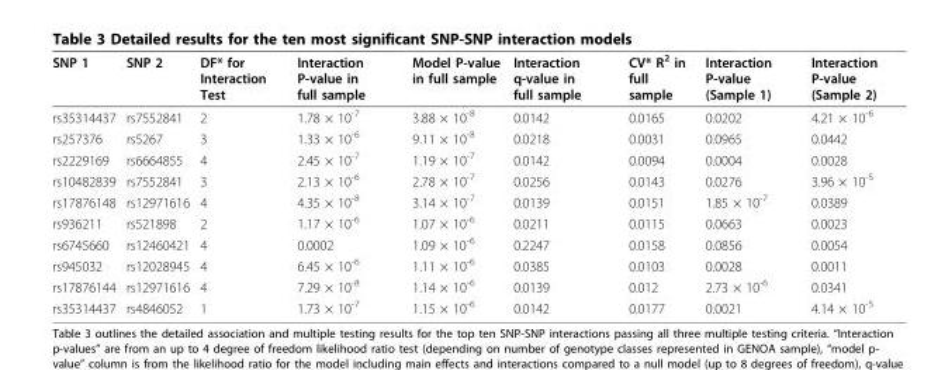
<table><thead><tr><td>SNP 1</td><td>SNP 2</td><td>DF* for Interaction Test</td><td>Interaction P-value in full sample</td><td>Model P-value in full sample</td><td>Interaction q-value in full sample</td><td>CV* R<sup>2</sup> in full sample</td><td>Interaction P-value (Sample 1)</td><td>Interaction P-value (Sample 2)</td></tr></thead><tbody><tr><td>rs35314437</td><td>rs7552841</td><td>2</td><td>1.78 × 10<sup>-7</sup></td><td>3.88 × 10<sup>-8</sup></td><td>0.0142</td><td>0.0165</td><td>0.0202</td><td>4.21 × 10<sup>-6</sup></td></tr><tr><td>rs257376</td><td>rs5267</td><td>3</td><td>1.33 × 10<sup>-6</sup></td><td>9.11 × 10<sup>-8</sup></td><td>0.0218</td><td>0.0031</td><td>0.0965</td><td>0.0442</td></tr><tr><td>rs2229169</td><td>rs6664855</td><td>4</td><td>2.45 × 10<sup>-7</sup></td><td>1.19 × 10<sup>-7</sup></td><td>0.0142</td><td>0.0094</td><td>0.0004</td><td>0.0028</td></tr><tr><td>rs10482839</td><td>rs7552841</td><td>3</td><td>2.13 × 10<sup>-6</sup></td><td>2.78 × 10<sup>-7</sup></td><td>0.0256</td><td>0.0143</td><td>0.0276</td><td>3.96 × 10<sup>-5</sup></td></tr><tr><td>rs17876148</td><td>rs12971616</td><td>4</td><td>4.35 × 10<sup>-8</sup></td><td>3.14 × 10<sup>-7</sup></td><td>0.0139</td><td>0.0151</td><td>1.85 × 10<sup>-7</sup></td><td>0.0389</td></tr><tr><td>rs936211</td><td>rs521898</td><td>2</td><td>1.17 × 10<sup>-6</sup></td><td>1.07 × 10<sup>-6</sup></td><td>0.0211</td><td>0.0115</td><td>0.0663</td><td>0.0023</td></tr><tr><td>rs6745660</td><td>rs12460421</td><td>4</td><td>0.0002</td><td>1.09 × 10<sup>-6</sup></td><td>0.2247</td><td>0.0158</td><td>0.0856</td><td>0.0054</td></tr><tr><td>rs945032</td><td>rs12028945</td><td>4</td><td>6.45 × 10<sup>-6</sup></td><td>1.11 × 10<sup>-6</sup></td><td>0.0385</td><td>0.0103</td><td>0.0028</td><td>0.0011</td></tr><tr><td>rs17876144</td><td>rs12971616</td><td>4</td><td>7.29 × 10<sup>-8</sup></td><td>1.14 × 10<sup>-6</sup></td><td>0.0139</td><td>0.012</td><td>2.73 × 10<sup>-6</sup></td><td>0.0341</td></tr><tr><td>rs35314437</td><td>rs4846052</td><td>1</td><td>1.73 × 10<sup>-7</sup></td><td>1.15 × 10<sup>-6</sup></td><td>0.0142</td><td>0.0177</td><td>0.0021</td><td>4.14 × 10<sup>-5</sup></td></tr></tbody></table>